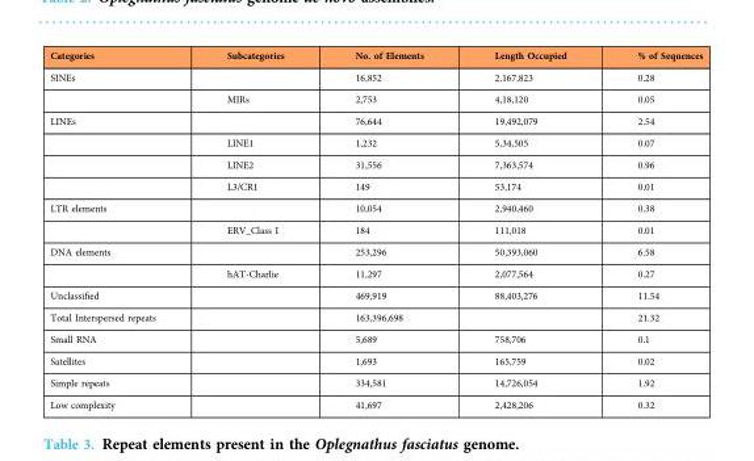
<table><thead><tr><td>Categories</td><td>Subcategories</td><td>No. of Elements</td><td>Length Occupied</td><td>% of Sequences</td></tr></thead><tbody><tr><td rowspan="2">SINEs</td><td></td><td>16,852</td><td>2,167,823</td><td>0.28</td></tr><tr><td>MIRs</td><td>2,753</td><td>4,18,120</td><td>0.05</td></tr><tr><td rowspan="4">LINEs</td><td></td><td>76,644</td><td>19,492,079</td><td>2.54</td></tr><tr><td>LINE1</td><td>1,232</td><td>5,34,505</td><td>0.07</td></tr><tr><td>LINE2</td><td>31,556</td><td>7,363,574</td><td>0.96</td></tr><tr><td>L3/CR1</td><td>149</td><td>53,174</td><td>0.01</td></tr><tr><td rowspan="2">LTR elements</td><td></td><td>10,054</td><td>2,940,460</td><td>0.38</td></tr><tr><td>ERV_Class I</td><td>184</td><td>111,018</td><td>0.01</td></tr><tr><td rowspan="2">DNA elements</td><td></td><td>253,296</td><td>50,393,060</td><td>6.58</td></tr><tr><td>hAT-Charlie</td><td>11,297</td><td>2,077,564</td><td>0.27</td></tr><tr><td>Unclassified</td><td></td><td>469,919</td><td>88,403,276</td><td>11.54</td></tr><tr><td>Total Interspersed repeats</td><td></td><td>163,396,698</td><td></td><td>21.32</td></tr><tr><td>Small RNA</td><td></td><td>5,689</td><td>758,706</td><td>0.1</td></tr><tr><td>Satellites</td><td></td><td>1,693</td><td>165,759</td><td>0.02</td></tr><tr><td>Simple repeats</td><td></td><td>334,581</td><td>14,726,054</td><td>1.92</td></tr><tr><td>Low complexity</td><td></td><td>41,697</td><td>2,428,206</td><td>0.32</td></tr></tbody></table>